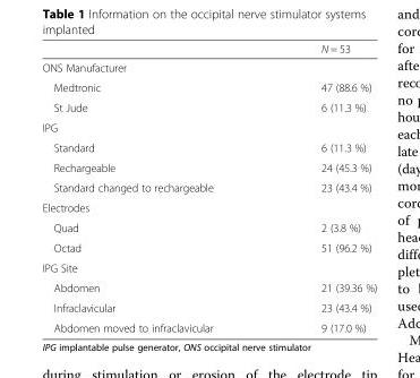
<table><thead><tr><td></td><td>N = 53</td></tr></thead><tbody><tr><td colspan="2">ONS Manufacturer</td></tr><tr><td>Medtronic</td><td>47 (88.6 %)</td></tr><tr><td>St Jude</td><td>6 (11.3 %)</td></tr><tr><td colspan="2">IPG</td></tr><tr><td>Standard</td><td>6 (11.3 %)</td></tr><tr><td>Rechargeable</td><td>24 (45.3 %)</td></tr><tr><td>Standard changed to rechargeable</td><td>23 (43.4 %)</td></tr><tr><td colspan="2">Electrodes</td></tr><tr><td>Quad</td><td>2 (3.8 %)</td></tr><tr><td>Octad</td><td>51 (96.2 %)</td></tr><tr><td colspan="2">IPG Site</td></tr><tr><td>Abdomen</td><td>21 (39.36 %)</td></tr><tr><td>Infraclavicular</td><td>23 (43.4 %)</td></tr><tr><td>Abdomen moved to infraclavicular</td><td>9 (17.0 %)</td></tr></tbody></table>